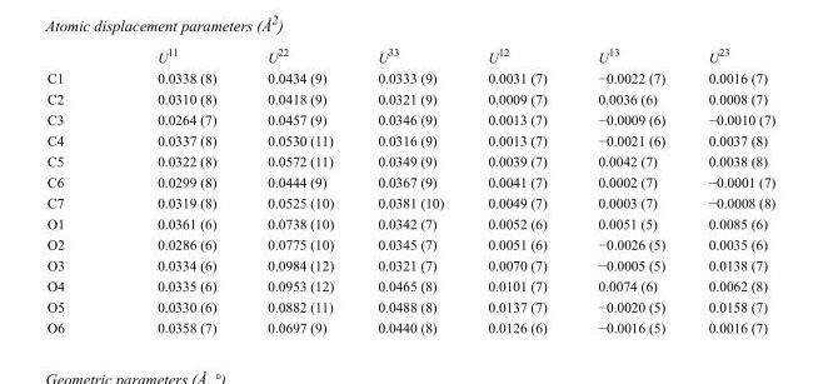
<table><thead><tr><td></td><td>U<sup>11</sup></td><td>U<sup>22</sup></td><td>U<sup>33</sup></td><td>U<sup>12</sup></td><td>U<sup>13</sup></td><td>U<sup>23</sup></td></tr></thead><tbody><tr><td>C1</td><td>0.0338 (8)</td><td>0.0434 (9)</td><td>0.0333 (9)</td><td>0.0031 (7)</td><td>−0.0022 (7)</td><td>0.0016 (7)</td></tr><tr><td>C2</td><td>0.0310 (8)</td><td>0.0418 (9)</td><td>0.0321 (9)</td><td>0.0009 (7)</td><td>0.0036 (6)</td><td>0.0008 (7)</td></tr><tr><td>C3</td><td>0.0264 (7)</td><td>0.0457 (9)</td><td>0.0346 (9)</td><td>0.0013 (7)</td><td>−0.0009 (6)</td><td>−0.0010 (7)</td></tr><tr><td>C4</td><td>0.0337 (8)</td><td>0.0530 (11)</td><td>0.0316 (9)</td><td>0.0013 (7)</td><td>−0.0021 (6)</td><td>0.0037 (8)</td></tr><tr><td>C5</td><td>0.0322 (8)</td><td>0.0572 (11)</td><td>0.0349 (9)</td><td>0.0039 (7)</td><td>0.0042 (7)</td><td>0.0038 (8)</td></tr><tr><td>C6</td><td>0.0299 (8)</td><td>0.0444 (9)</td><td>0.0367 (9)</td><td>0.0041 (7)</td><td>0.0002 (7)</td><td>−0.0001 (7)</td></tr><tr><td>C7</td><td>0.0319 (8)</td><td>0.0525 (10)</td><td>0.0381 (10)</td><td>0.0049 (7)</td><td>0.0003 (7)</td><td>−0.0008 (8)</td></tr><tr><td>O1</td><td>0.0361 (6)</td><td>0.0738 (10)</td><td>0.0342 (7)</td><td>0.0052 (6)</td><td>0.0051 (5)</td><td>0.0085 (6)</td></tr><tr><td>O2</td><td>0.0286 (6)</td><td>0.0775 (10)</td><td>0.0345 (7)</td><td>0.0051 (6)</td><td>−0.0026 (5)</td><td>0.0035 (6)</td></tr><tr><td>O3</td><td>0.0334 (6)</td><td>0.0984 (12)</td><td>0.0321 (7)</td><td>0.0070 (7)</td><td>−0.0005 (5)</td><td>0.0138 (7)</td></tr><tr><td>O4</td><td>0.0335 (6)</td><td>0.0953 (12)</td><td>0.0465 (8)</td><td>0.0101 (7)</td><td>0.0074 (6)</td><td>0.0062 (8)</td></tr><tr><td>O5</td><td>0.0330 (6)</td><td>0.0882 (11)</td><td>0.0488 (8)</td><td>0.0137 (7)</td><td>−0.0020 (5)</td><td>0.0158 (7)</td></tr><tr><td>O6</td><td>0.0358 (7)</td><td>0.0697 (9)</td><td>0.0440 (8)</td><td>0.0126 (6)</td><td>−0.0016 (5)</td><td>0.0016 (7)</td></tr></tbody></table>